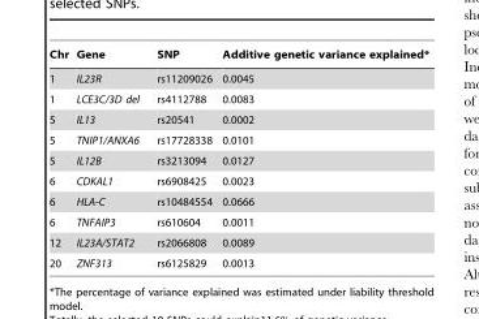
<table><thead><tr><td>Chr</td><td>Gene</td><td>SNP</td><td>Additive genetic variance explained*</td></tr></thead><tbody><tr><td>1</td><td>IL23R</td><td>rs11209026</td><td>0.0045</td></tr><tr><td>1</td><td>LCE3C/3D del</td><td>rs4112788</td><td>0.0083</td></tr><tr><td>5</td><td>IL13</td><td>rs20541</td><td>0.0002</td></tr><tr><td>5</td><td>TNIP1/ANXA6</td><td>rs17728338</td><td>0.0101</td></tr><tr><td>5</td><td>IL12B</td><td>rs3213094</td><td>0.0127</td></tr><tr><td>6</td><td>CDKAL1</td><td>rs6908425</td><td>0.0023</td></tr><tr><td>6</td><td>HLA-C</td><td>rs10484554</td><td>0.0666</td></tr><tr><td>6</td><td>TNFAIP3</td><td>rs610604</td><td>0.0011</td></tr><tr><td>12</td><td>IL23A/STAT2</td><td>rs2066808</td><td>0.0089</td></tr><tr><td>20</td><td>ZNF313</td><td>rs6125829</td><td>0.0013</td></tr></tbody></table>